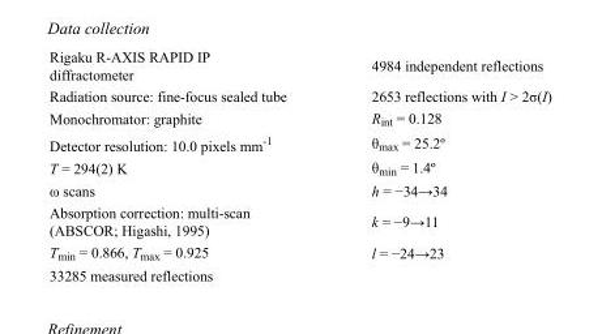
<table><tbody><tr><td>Rigaku R-AXIS RAPID IP diffractometer</td><td>4984 independent reflections</td></tr><tr><td>Radiation source: fine-focus sealed tube</td><td>2653 reflections with I &gt; 2σ(I)</td></tr><tr><td>Monochromator: graphite</td><td>R<sub>int</sub> = 0.128</td></tr><tr><td>Detector resolution: 10.0 pixels mm<sup>-1</sup></td><td>θ<sub>max</sub> = 25.2º</td></tr><tr><td>T = 294(2) K</td><td>θ<sub>min</sub> = 1.4º</td></tr><tr><td>ω scans</td><td>h = −34→34</td></tr><tr><td>Absorption correction: multi-scan (ABSCOR; Higashi, 1995)</td><td>k = −9→11</td></tr><tr><td>T<sub>min</sub> = 0.866, T<sub>max</sub> = 0.925</td><td>l = −24→23</td></tr><tr><td>33285 measured reflections</td><td></td></tr></tbody></table>